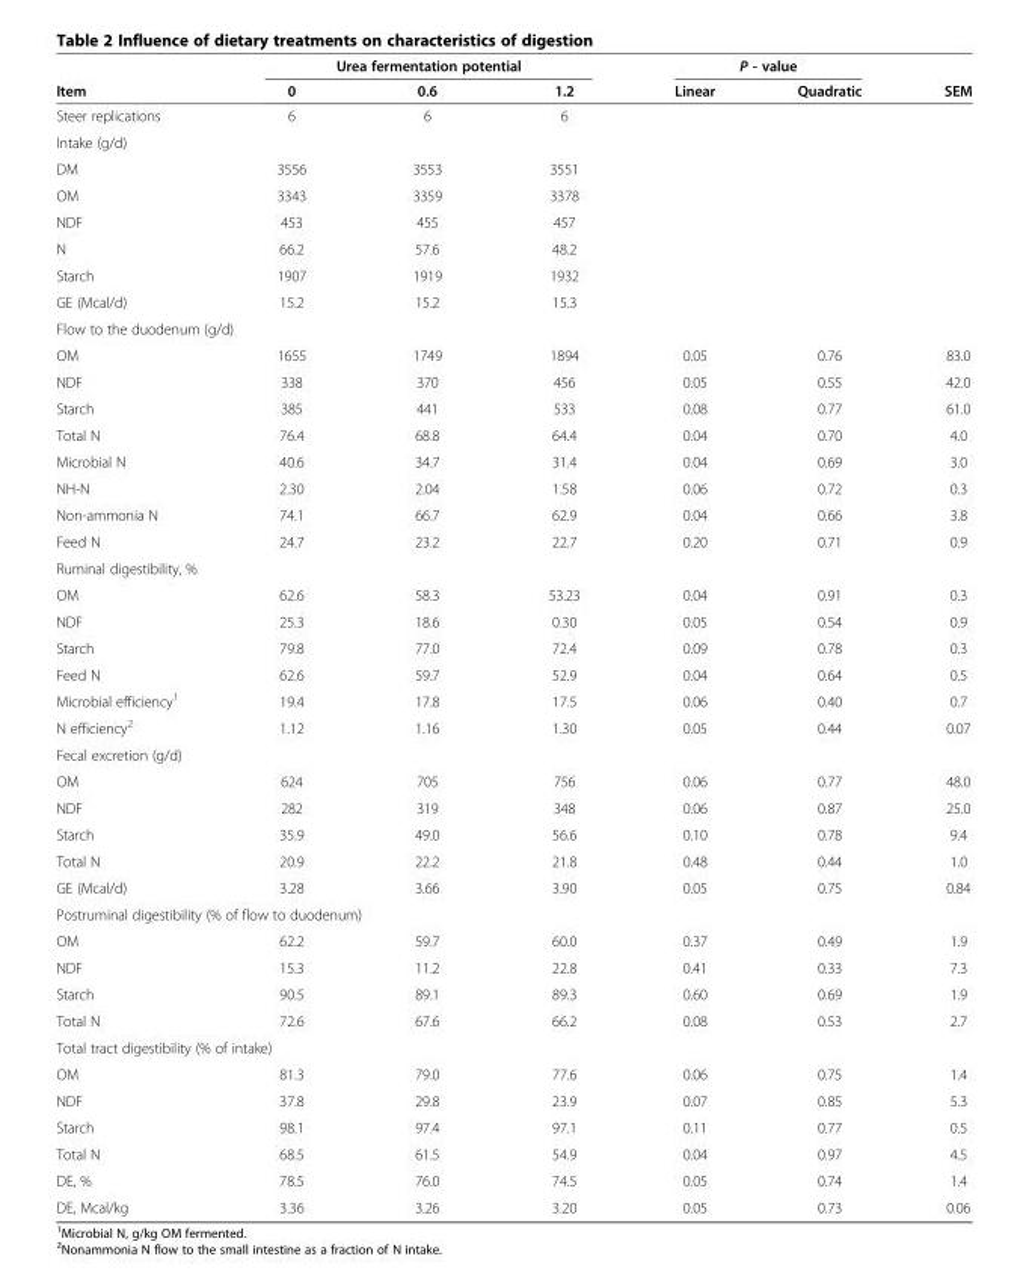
<table><thead><tr><td rowspan="2">Item</td><td colspan="3">Urea fermentation potential</td><td colspan="2">P - value</td><td rowspan="2">SEM</td></tr><tr><td>0</td><td>0.6</td><td>1.2</td><td>Linear</td><td>Quadratic</td></tr></thead><tbody><tr><td>Steer replications</td><td>6</td><td>6</td><td>6</td><td></td><td></td><td></td></tr><tr><td colspan="7">Intake (g/d)</td></tr><tr><td>DM</td><td>3556</td><td>3553</td><td>3551</td><td></td><td></td><td></td></tr><tr><td>OM</td><td>3343</td><td>3359</td><td>3378</td><td></td><td></td><td></td></tr><tr><td>NDF</td><td>453</td><td>455</td><td>457</td><td></td><td></td><td></td></tr><tr><td>N</td><td>66.2</td><td>57.6</td><td>48.2</td><td></td><td></td><td></td></tr><tr><td>Starch</td><td>1907</td><td>1919</td><td>1932</td><td></td><td></td><td></td></tr><tr><td>GE (Mcal/d)</td><td>15.2</td><td>15.2</td><td>15.3</td><td></td><td></td><td></td></tr><tr><td colspan="7">Flow to the duodenum (g/d)</td></tr><tr><td>OM</td><td>1655</td><td>1749</td><td>1894</td><td>0.05</td><td>0.76</td><td>83.0</td></tr><tr><td>NDF</td><td>338</td><td>370</td><td>456</td><td>0.05</td><td>0.55</td><td>42.0</td></tr><tr><td>Starch</td><td>385</td><td>441</td><td>533</td><td>0.08</td><td>0.77</td><td>61.0</td></tr><tr><td>Total N</td><td>76.4</td><td>68.8</td><td>64.4</td><td>0.04</td><td>0.70</td><td>4.0</td></tr><tr><td>Microbial N</td><td>40.6</td><td>34.7</td><td>31.4</td><td>0.04</td><td>0.69</td><td>3.0</td></tr><tr><td>NH-N</td><td>2.30</td><td>2.04</td><td>1.58</td><td>0.06</td><td>0.72</td><td>0.3</td></tr><tr><td>Non-ammonia N</td><td>74.1</td><td>66.7</td><td>62.9</td><td>0.04</td><td>0.66</td><td>3.8</td></tr><tr><td>Feed N</td><td>24.7</td><td>23.2</td><td>22.7</td><td>0.20</td><td>0.71</td><td>0.9</td></tr><tr><td colspan="7">Ruminal digestibility, %</td></tr><tr><td>OM</td><td>62.6</td><td>58.3</td><td>53.23</td><td>0.04</td><td>0.91</td><td>0.3</td></tr><tr><td>NDF</td><td>25.3</td><td>18.6</td><td>0.30</td><td>0.05</td><td>0.54</td><td>0.9</td></tr><tr><td>Starch</td><td>79.8</td><td>77.0</td><td>72.4</td><td>0.09</td><td>0.78</td><td>0.3</td></tr><tr><td>Feed N</td><td>62.6</td><td>59.7</td><td>52.9</td><td>0.04</td><td>0.64</td><td>0.5</td></tr><tr><td>Microbial efficiency<sup>1</sup></td><td>19.4</td><td>17.8</td><td>17.5</td><td>0.06</td><td>0.40</td><td>0.7</td></tr><tr><td>N efficiency<sup>2</sup></td><td>1.12</td><td>1.16</td><td>1.30</td><td>0.05</td><td>0.44</td><td>0.07</td></tr><tr><td colspan="7">Fecal excretion (g/d)</td></tr><tr><td>OM</td><td>624</td><td>705</td><td>756</td><td>0.06</td><td>0.77</td><td>48.0</td></tr><tr><td>NDF</td><td>282</td><td>319</td><td>348</td><td>0.06</td><td>0.87</td><td>25.0</td></tr><tr><td>Starch</td><td>35.9</td><td>49.0</td><td>56.6</td><td>0.10</td><td>0.78</td><td>9.4</td></tr><tr><td>Total N</td><td>20.9</td><td>22.2</td><td>21.8</td><td>0.48</td><td>0.44</td><td>1.0</td></tr><tr><td>GE (Mcal/d)</td><td>3.28</td><td>3.66</td><td>3.90</td><td>0.05</td><td>0.75</td><td>0.84</td></tr><tr><td colspan="7">Postruminal digestibility (% of flow to duodenum)</td></tr><tr><td>OM</td><td>62.2</td><td>59.7</td><td>60.0</td><td>0.37</td><td>0.49</td><td>1.9</td></tr><tr><td>NDF</td><td>15.3</td><td>11.2</td><td>22.8</td><td>0.41</td><td>0.33</td><td>7.3</td></tr><tr><td>Starch</td><td>90.5</td><td>89.1</td><td>89.3</td><td>0.60</td><td>0.69</td><td>1.9</td></tr><tr><td>Total N</td><td>72.6</td><td>67.6</td><td>66.2</td><td>0.08</td><td>0.53</td><td>2.7</td></tr><tr><td colspan="7">Total tract digestibility (% of intake)</td></tr><tr><td>OM</td><td>81.3</td><td>79.0</td><td>77.6</td><td>0.06</td><td>0.75</td><td>1.4</td></tr><tr><td>NDF</td><td>37.8</td><td>29.8</td><td>23.9</td><td>0.07</td><td>0.85</td><td>5.3</td></tr><tr><td>Starch</td><td>98.1</td><td>97.4</td><td>97.1</td><td>0.11</td><td>0.77</td><td>0.5</td></tr><tr><td>Total N</td><td>68.5</td><td>61.5</td><td>54.9</td><td>0.04</td><td>0.97</td><td>4.5</td></tr><tr><td>DE, %</td><td>78.5</td><td>76.0</td><td>74.5</td><td>0.05</td><td>0.74</td><td>1.4</td></tr><tr><td>DE, Mcal/kg</td><td>3.36</td><td>3.26</td><td>3.20</td><td>0.05</td><td>0.73</td><td>0.06</td></tr></tbody></table>